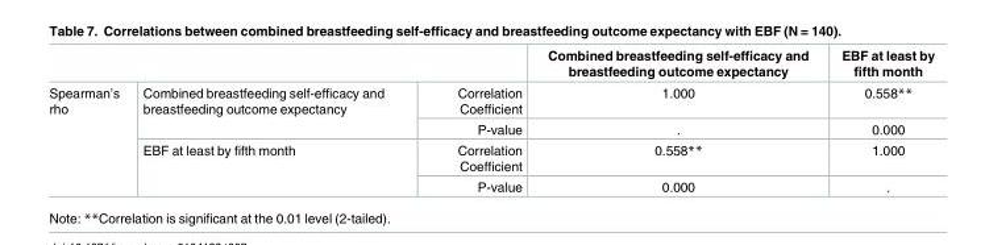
<table><thead><tr><td></td><td></td><td></td><td>Combined breastfeeding self-efficacy and breastfeeding outcome expectancy</td><td>EBF at least by fifth month</td></tr></thead><tbody><tr><td rowspan="4">Spearman’s rho</td><td rowspan="2">Combined breastfeeding self-efficacy and breastfeeding outcome expectancy</td><td>Correlation Coefficient</td><td>1.000</td><td>0.558**</td></tr><tr><td>P-value</td><td>.</td><td>0.000</td></tr><tr><td rowspan="2">EBF at least by fifth month</td><td>Correlation Coefficient</td><td>0.558**</td><td>1.000</td></tr><tr><td>P-value</td><td>0.000</td><td>.</td></tr></tbody></table>